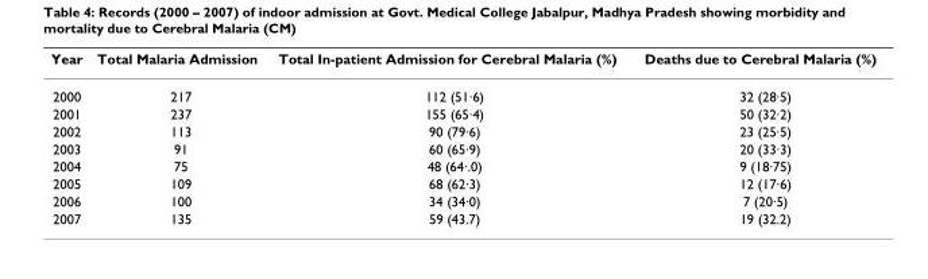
<table><thead><tr><td>Year</td><td>Total Malaria Admission</td><td>Total In-patient Admission for Cerebral Malaria (%)</td><td>Deaths due to Cerebral Malaria (%)</td></tr></thead><tbody><tr><td>2000</td><td>217</td><td>112 (51·6)</td><td>32 (28·5)</td></tr><tr><td>2001</td><td>237</td><td>155 (65·4)</td><td>50 (32·2)</td></tr><tr><td>2002</td><td>113</td><td>90 (79·6)</td><td>23 (25·5)</td></tr><tr><td>2003</td><td>91</td><td>60 (65·9)</td><td>20 (33·3)</td></tr><tr><td>2004</td><td>75</td><td>48 (64·.0)</td><td>9 (18·75)</td></tr><tr><td>2005</td><td>109</td><td>68 (62·3)</td><td>12 (17·6)</td></tr><tr><td>2006</td><td>100</td><td>34 (34·0)</td><td>7 (20·5)</td></tr><tr><td>2007</td><td>135</td><td>59 (43.7)</td><td>19 (32.2)</td></tr></tbody></table>